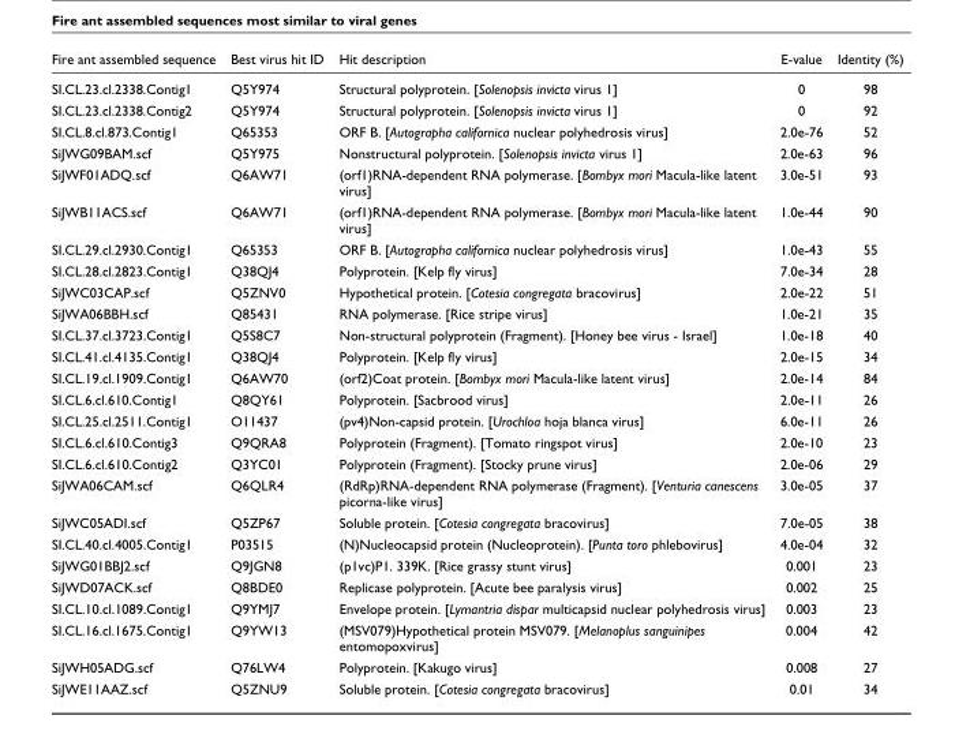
<table><thead><tr><td>Fire ant assembled sequence</td><td>Best virus hit ID</td><td>Hit description</td><td>E-value</td><td>Identity (%)</td></tr></thead><tbody><tr><td>SI.CL.23.cl.2338.Contig1</td><td>Q5Y974</td><td>Structural polyprotein. [Solenopsis invicta virus 1]</td><td>0</td><td>98</td></tr><tr><td>SI.CL.23.cl.2338.Contig2</td><td>Q5Y974</td><td>Structural polyprotein. [Solenopsis invicta virus 1]</td><td>0</td><td>92</td></tr><tr><td>SI.CL.8.cl.873.Contig1</td><td>Q65353</td><td>ORF B. [Autographa californica nuclear polyhedrosis virus]</td><td>2.0e-76</td><td>52</td></tr><tr><td>SiJWG09BAM.scf</td><td>Q5Y975</td><td>Nonstructural polyprotein. [Solenopsis invicta virus 1]</td><td>2.0e-63</td><td>96</td></tr><tr><td>SiJWF01ADQ.scf</td><td>Q6AW71</td><td>(orf1)RNA-dependent RNA polymerase. [Bombyx mori Macula-like latent virus]</td><td>3.0e-51</td><td>93</td></tr><tr><td>SiJWB11ACS.scf</td><td>Q6AW71</td><td>(orf1)RNA-dependent RNA polymerase. [Bombyx mori Macula-like latent virus]</td><td>1.0e-44</td><td>90</td></tr><tr><td>SI.CL.29.cl.2930.Contig1</td><td>Q65353</td><td>ORF B. [Autographa californica nuclear polyhedrosis virus]</td><td>1.0e-43</td><td>55</td></tr><tr><td>SI.CL.28.cl.2823.Contig1</td><td>Q38QJ4</td><td>Polyprotein. [Kelp fly virus]</td><td>7.0e-34</td><td>28</td></tr><tr><td>SiJWC03CAP.scf</td><td>Q5ZNV0</td><td>Hypothetical protein. [Cotesia congregata bracovirus]</td><td>2.0e-22</td><td>51</td></tr><tr><td>SiJWA06BBH.scf</td><td>Q85431</td><td>RNA polymerase. [Rice stripe virus]</td><td>1.0e-21</td><td>35</td></tr><tr><td>SI.CL.37.cl.3723.Contig1</td><td>Q5S8C7</td><td>Non-structural polyprotein (Fragment). [Honey bee virus - Israel]</td><td>1.0e-18</td><td>40</td></tr><tr><td>SI.CL.41.cl.4135.Contig1</td><td>Q38QJ4</td><td>Polyprotein. [Kelp fly virus]</td><td>2.0e-15</td><td>34</td></tr><tr><td>SI.CL.19.cl.1909.Contig1</td><td>Q6AW70</td><td>(orf2)Coat protein. [Bombyx mori Macula-like latent virus]</td><td>2.0e-14</td><td>84</td></tr><tr><td>SI.CL.6.cl.610.Contig1</td><td>Q8QY61</td><td>Polyprotein. [Sacbrood virus]</td><td>2.0e-11</td><td>26</td></tr><tr><td>SI.CL.25.cl.2511.Contig1</td><td>O11437</td><td>(pv4)Non-capsid protein. [Urochloa hoja blanca virus]</td><td>6.0e-11</td><td>26</td></tr><tr><td>SI.CL.6.cl.610.Contig3</td><td>Q9QRA8</td><td>Polyprotein (Fragment). [Tomato ringspot virus]</td><td>2.0e-10</td><td>23</td></tr><tr><td>SI.CL.6.cl.610.Contig2</td><td>Q3YC01</td><td>Polyprotein (Fragment). [Stocky prune virus]</td><td>2.0e-06</td><td>29</td></tr><tr><td>SiJWA06CAM.scf</td><td>Q6QLR4</td><td>(RdRp)RNA-dependent RNA polymerase (Fragment). [Venturia canescens picorna-like virus]</td><td>3.0e-05</td><td>37</td></tr><tr><td>SiJWC05ADI.scf</td><td>Q5ZP67</td><td>Soluble protein. [Cotesia congregata bracovirus]</td><td>7.0e-05</td><td>38</td></tr><tr><td>SI.CL.40.cl.4005.Contig1</td><td>P03515</td><td>(N)Nucleocapsid protein (Nucleoprotein). [Punta toro phlebovirus]</td><td>4.0e-04</td><td>32</td></tr><tr><td>SiJWG01BBJ2.scf</td><td>Q9JGN8</td><td>(p1vc)P1. 339K. [Rice grassy stunt virus]</td><td>0.001</td><td>23</td></tr><tr><td>SiJWD07ACK.scf</td><td>Q8BDE0</td><td>Replicase polyprotein. [Acute bee paralysis virus]</td><td>0.002</td><td>25</td></tr><tr><td>SI.CL.10.cl.1089.Contig1</td><td>Q9YMJ7</td><td>Envelope protein. [Lymantria dispar multicapsid nuclear polyhedrosis virus]</td><td>0.003</td><td>23</td></tr><tr><td>SI.CL.16.cl.1675.Contig1</td><td>Q9YW13</td><td>(MSV079)Hypothetical protein MSV079. [Melanoplus sanguinipes entomopoxvirus]</td><td>0.004</td><td>42</td></tr><tr><td>SiJWH05ADG.scf</td><td>Q76LW4</td><td>Polyprotein. [Kakugo virus]</td><td>0.008</td><td>27</td></tr><tr><td>SiJWE11AAZ.scf</td><td>Q5ZNU9</td><td>Soluble protein. [Cotesia congregata bracovirus]</td><td>0.01</td><td>34</td></tr></tbody></table>